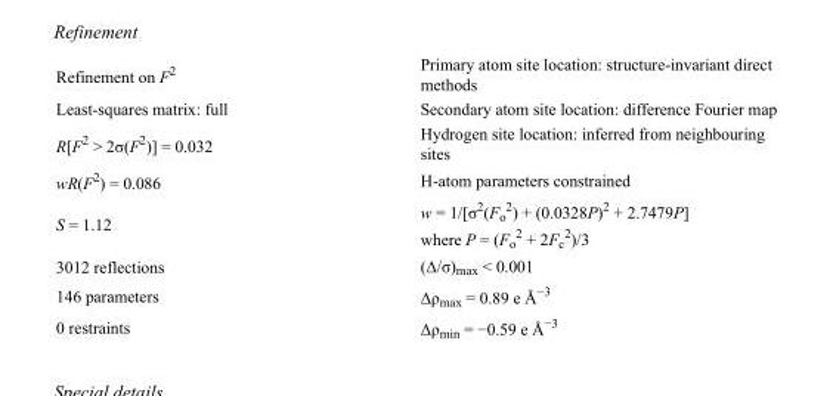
<table><tbody><tr><td>Refinement on F<sup>2</sup></td><td>Primary atom site location: structure-invariant direct methods</td></tr><tr><td>Least-squares matrix: full</td><td>Secondary atom site location: difference Fourier map</td></tr><tr><td>R[F<sup>2</sup> &gt; 2σ(F<sup>2</sup>)] = 0.032</td><td>Hydrogen site location: inferred from neighbouring sites</td></tr><tr><td>wR(F<sup>2</sup>) = 0.086</td><td>H-atom parameters constrained</td></tr><tr><td>S = 1.12</td><td>w = 1/[σ<sup>2</sup>(F<sub>o</sub> <sup>2</sup>) + (0.0328P)<sup>2</sup> + 2.7479P] where P = (F<sub>o</sub> <sup>2</sup> + 2F<sub>c</sub> <sup>2</sup>)/3</td></tr><tr><td>3012 reflections</td><td>(Δ/σ)<sub>max</sub> &lt; 0.001</td></tr><tr><td>146 parameters</td><td>Δρ<sub>max</sub> = 0.89 e Å<sup>−3</sup></td></tr><tr><td>0 restraints</td><td>Δρ<sub>min</sub> = −0.59 e Å<sup>−3</sup></td></tr></tbody></table>